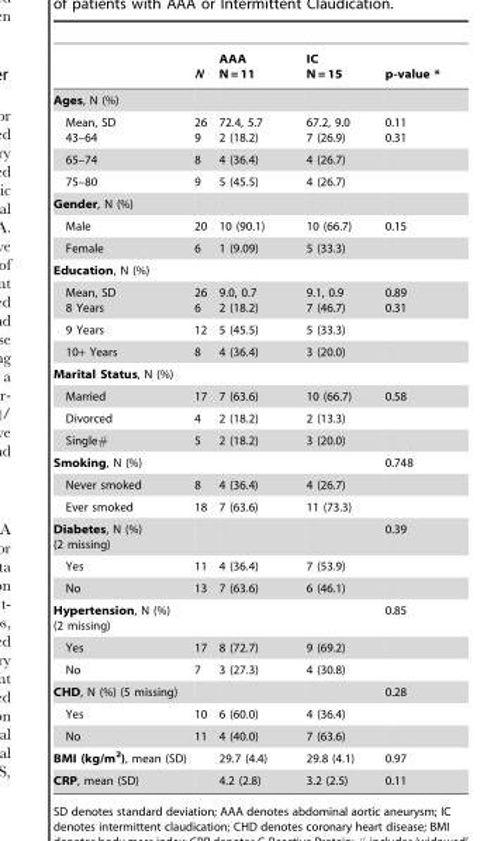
<table><thead><tr><td></td><td>N</td><td>AAA N = 11</td><td>IC N = 15</td><td>p-value *</td></tr></thead><tbody><tr><td colspan="5">Ages, N (%)</td></tr><tr><td>Mean, SD 43–64</td><td>26 9</td><td>72.4, 5.7 2 (18.2)</td><td>67.2, 9.0 7 (26.9)</td><td>0.11 0.31</td></tr><tr><td>65–74</td><td>8</td><td>4 (36.4)</td><td>4 (26.7)</td><td></td></tr><tr><td>75–80</td><td>9</td><td>5 (45.5)</td><td>4 (26.7)</td><td></td></tr><tr><td colspan="5">Gender, N (%)</td></tr><tr><td>Male</td><td>20</td><td>10 (90.1)</td><td>10 (66.7)</td><td>0.15</td></tr><tr><td>Female</td><td>6</td><td>1 (9.09)</td><td>5 (33.3)</td><td></td></tr><tr><td colspan="5">Education, N (%)</td></tr><tr><td>Mean, SD 8 Years</td><td>26 6</td><td>9.0, 0.7 2 (18.2)</td><td>9.1, 0.9 7 (46.7)</td><td>0.89 0.31</td></tr><tr><td>9 Years</td><td>12</td><td>5 (45.5)</td><td>5 (33.3)</td><td></td></tr><tr><td>10+ Years</td><td>8</td><td>4 (36.4)</td><td>3 (20.0)</td><td></td></tr><tr><td colspan="5">Marital Status, N (%)</td></tr><tr><td>Married</td><td>17</td><td>7 (63.6)</td><td>10 (66.7)</td><td>0.58</td></tr><tr><td>Divorced</td><td>4</td><td>2 (18.2)</td><td>2 (13.3)</td><td></td></tr><tr><td>Single#</td><td>5</td><td>2 (18.2)</td><td>3 (20.0)</td><td></td></tr><tr><td>Smoking, N (%)</td><td></td><td></td><td></td><td>0.748</td></tr><tr><td>Never smoked</td><td>8</td><td>4 (36.4)</td><td>4 (26.7)</td><td></td></tr><tr><td>Ever smoked</td><td>18</td><td>7 (63.6)</td><td>11 (73.3)</td><td></td></tr><tr><td>Diabetes, N (%) (2 missing)</td><td></td><td></td><td></td><td>0.39</td></tr><tr><td>Yes</td><td>11</td><td>4 (36.4)</td><td>7 (53.9)</td><td></td></tr><tr><td>No</td><td>13</td><td>7 (63.6)</td><td>6 (46.1)</td><td></td></tr><tr><td>Hypertension, N (%) (2 missing)</td><td></td><td></td><td></td><td>0.85</td></tr><tr><td>Yes</td><td>17</td><td>8 (72.7)</td><td>9 (69.2)</td><td></td></tr><tr><td>No</td><td>7</td><td>3 (27.3)</td><td>4 (30.8)</td><td></td></tr><tr><td>CHD, N (%) (5 missing)</td><td></td><td></td><td></td><td>0.28</td></tr><tr><td>Yes</td><td>10</td><td>6 (60.0)</td><td>4 (36.4)</td><td></td></tr><tr><td>No</td><td>11</td><td>4 (40.0)</td><td>7 (63.6)</td><td></td></tr><tr><td>BMI (kg/m<sup>2</sup>), mean (SD)</td><td></td><td>29.7 (4.4)</td><td>29.8 (4.1)</td><td>0.97</td></tr><tr><td>CRP, mean (SD)</td><td></td><td>4.2 (2.8)</td><td>3.2 (2.5)</td><td>0.11</td></tr></tbody></table>